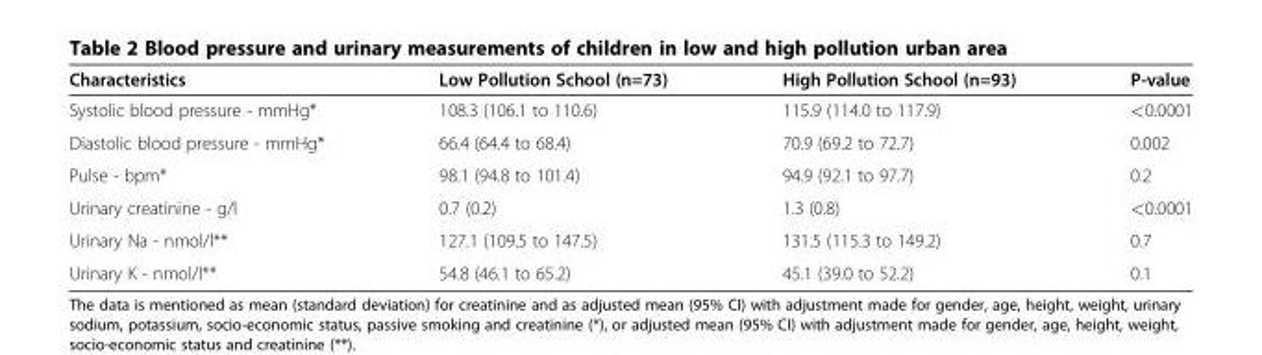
<table><thead><tr><td>Characteristics</td><td>Low Pollution School (n=73)</td><td>High Pollution School (n=93)</td><td>P-value</td></tr></thead><tbody><tr><td>Systolic blood pressure - mmHg*</td><td>108.3 (106.1 to 110.6)</td><td>115.9 (114.0 to 117.9)</td><td>&lt;0.0001</td></tr><tr><td>Diastolic blood pressure - mmHg*</td><td>66.4 (64.4 to 68.4)</td><td>70.9 (69.2 to 72.7)</td><td>0.002</td></tr><tr><td>Pulse - bpm*</td><td>98.1 (94.8 to 101.4)</td><td>94.9 (92.1 to 97.7)</td><td>0.2</td></tr><tr><td>Urinary creatinine - g/l</td><td>0.7 (0.2)</td><td>1.3 (0.8)</td><td>&lt;0.0001</td></tr><tr><td>Urinary Na - nmol/l**</td><td>127.1 (109.5 to 147.5)</td><td>131.5 (115.3 to 149.2)</td><td>0.7</td></tr><tr><td>Urinary K - nmol/l**</td><td>54.8 (46.1 to 65.2)</td><td>45.1 (39.0 to 52.2)</td><td>0.1</td></tr></tbody></table>